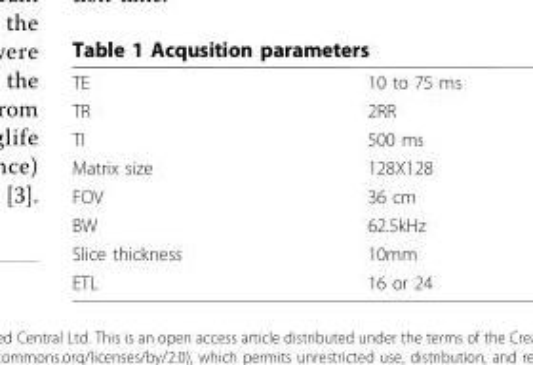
<table><tbody><tr><td>TE</td><td>10 to 75 ms</td></tr><tr><td>TR</td><td>2RR</td></tr><tr><td>TI</td><td>500 ms</td></tr><tr><td>Matrix size</td><td>128X128</td></tr><tr><td>FOV</td><td>36 cm</td></tr><tr><td>BW</td><td>62.5kHz</td></tr><tr><td>Slice thickness</td><td>10mm</td></tr><tr><td>ETL</td><td>16 or 24</td></tr></tbody></table>